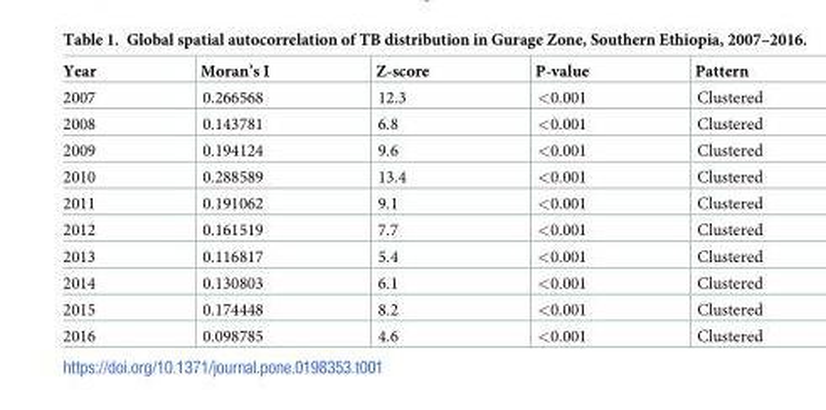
<table><thead><tr><td>Year</td><td>Moran’s I</td><td>Z-score</td><td>P-value</td><td>Pattern</td></tr></thead><tbody><tr><td>2007</td><td>0.266568</td><td>12.3</td><td>&lt;0.001</td><td>Clustered</td></tr><tr><td>2008</td><td>0.143781</td><td>6.8</td><td>&lt;0.001</td><td>Clustered</td></tr><tr><td>2009</td><td>0.194124</td><td>9.6</td><td>&lt;0.001</td><td>Clustered</td></tr><tr><td>2010</td><td>0.288589</td><td>13.4</td><td>&lt;0.001</td><td>Clustered</td></tr><tr><td>2011</td><td>0.191062</td><td>9.1</td><td>&lt;0.001</td><td>Clustered</td></tr><tr><td>2012</td><td>0.161519</td><td>7.7</td><td>&lt;0.001</td><td>Clustered</td></tr><tr><td>2013</td><td>0.116817</td><td>5.4</td><td>&lt;0.001</td><td>Clustered</td></tr><tr><td>2014</td><td>0.130803</td><td>6.1</td><td>&lt;0.001</td><td>Clustered</td></tr><tr><td>2015</td><td>0.174448</td><td>8.2</td><td>&lt;0.001</td><td>Clustered</td></tr><tr><td>2016</td><td>0.098785</td><td>4.6</td><td>&lt;0.001</td><td>Clustered</td></tr></tbody></table>